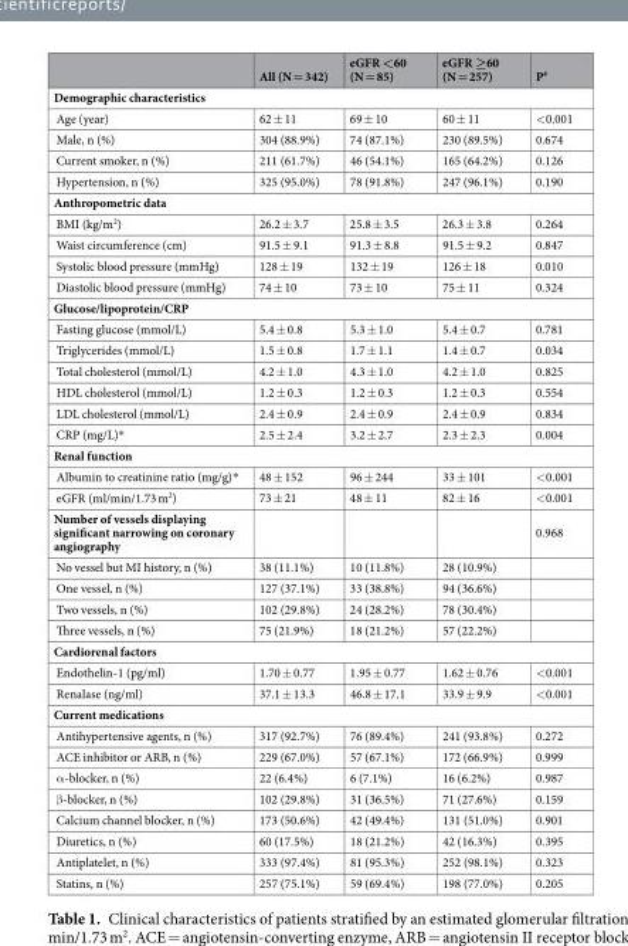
<table><thead><tr><td></td><td>All (N = 342)</td><td>eGFR &lt;60 (N = 85)</td><td>eGFR ≥60 (N = 257)</td><td>P<sup>#</sup></td></tr></thead><tbody><tr><td colspan="5">Demographic characteristics</td></tr><tr><td>Age (year)</td><td>62 ± 11</td><td>69 ± 10</td><td>60 ± 11</td><td>&lt;0.001</td></tr><tr><td>Male, n (%)</td><td>304 (88.9%)</td><td>74 (87.1%)</td><td>230 (89.5%)</td><td>0.674</td></tr><tr><td>Current smoker, n (%)</td><td>211 (61.7%)</td><td>46 (54.1%)</td><td>165 (64.2%)</td><td>0.126</td></tr><tr><td>Hypertension, n (%)</td><td>325 (95.0%)</td><td>78 (91.8%)</td><td>247 (96.1%)</td><td>0.190</td></tr><tr><td colspan="5">Anthropometric data</td></tr><tr><td>BMI (kg/m<sup>2</sup>)</td><td>26.2 ± 3.7</td><td>25.8 ± 3.5</td><td>26.3 ± 3.8</td><td>0.264</td></tr><tr><td>Waist circumference (cm)</td><td>91.5 ± 9.1</td><td>91.3 ± 8.8</td><td>91.5 ± 9.2</td><td>0.847</td></tr><tr><td>Systolic blood pressure (mmHg)</td><td>128 ± 19</td><td>132 ± 19</td><td>126 ± 18</td><td>0.010</td></tr><tr><td>Diastolic blood pressure (mmHg)</td><td>74 ± 10</td><td>73 ± 10</td><td>75 ± 11</td><td>0.324</td></tr><tr><td colspan="5">Glucose/lipoprotein/CRP</td></tr><tr><td>Fasting glucose (mmol/L)</td><td>5.4 ± 0.8</td><td>5.3 ± 1.0</td><td>5.4 ± 0.7</td><td>0.781</td></tr><tr><td>Triglycerides (mmol/L)</td><td>1.5 ± 0.8</td><td>1.7 ± 1.1</td><td>1.4 ± 0.7</td><td>0.034</td></tr><tr><td>Total cholesterol (mmol/L)</td><td>4.2 ± 1.0</td><td>4.3 ± 1.0</td><td>4.2 ± 1.0</td><td>0.825</td></tr><tr><td>HDL cholesterol (mmol/L)</td><td>1.2 ± 0.3</td><td>1.2 ± 0.3</td><td>1.2 ± 0.3</td><td>0.554</td></tr><tr><td>LDL cholesterol (mmol/L)</td><td>2.4 ± 0.9</td><td>2.4 ± 0.9</td><td>2.4 ± 0.9</td><td>0.834</td></tr><tr><td>CRP (mg/L)*</td><td>2.5 ± 2.4</td><td>3.2 ± 2.7</td><td>2.3 ± 2.3</td><td>0.004</td></tr><tr><td colspan="5">Renal function</td></tr><tr><td>Albumin to creatinine ratio (mg/g)*</td><td>48 ± 152</td><td>96 ± 244</td><td>33 ± 101</td><td>&lt;0.001</td></tr><tr><td>eGFR (ml/min/1.73 m<sup>2</sup>)</td><td>73 ± 21</td><td>48 ± 11</td><td>82 ± 16</td><td>&lt;0.001</td></tr><tr><td>Number of vessels displaying significant narrowing on coronary angiography</td><td></td><td></td><td></td><td>0.968</td></tr><tr><td>No vessel but MI history, n (%)</td><td>38 (11.1%)</td><td>10 (11.8%)</td><td>28 (10.9%)</td><td></td></tr><tr><td>One vessel, n (%)</td><td>127 (37.1%)</td><td>33 (38.8%)</td><td>94 (36.6%)</td><td></td></tr><tr><td>Two vessels, n (%)</td><td>102 (29.8%)</td><td>24 (28.2%)</td><td>78 (30.4%)</td><td></td></tr><tr><td>Three vessels, n (%)</td><td>75 (21.9%)</td><td>18 (21.2%)</td><td>57 (22.2%)</td><td></td></tr><tr><td colspan="5">Cardiorenal factors</td></tr><tr><td>Endothelin-1 (pg/ml)</td><td>1.70 ± 0.77</td><td>1.95 ± 0.77</td><td>1.62 ± 0.76</td><td>&lt;0.001</td></tr><tr><td>Renalase (ng/ml)</td><td>37.1 ± 13.3</td><td>46.8 ± 17.1</td><td>33.9 ± 9.9</td><td>&lt;0.001</td></tr><tr><td colspan="5">Current medications</td></tr><tr><td>Antihypertensive agents, n (%)</td><td>317 (92.7%)</td><td>76 (89.4%)</td><td>241 (93.8%)</td><td>0.272</td></tr><tr><td>ACE inhibitor or ARB, n (%)</td><td>229 (67.0%)</td><td>57 (67.1%)</td><td>172 (66.9%)</td><td>0.999</td></tr><tr><td>α-blocker, n (%)</td><td>22 (6.4%)</td><td>6 (7.1%)</td><td>16 (6.2%)</td><td>0.987</td></tr><tr><td>β-blocker, n (%)</td><td>102 (29.8%)</td><td>31 (36.5%)</td><td>71 (27.6%)</td><td>0.159</td></tr><tr><td>Calcium channel blocker, n (%)</td><td>173 (50.6%)</td><td>42 (49.4%)</td><td>131 (51.0%)</td><td>0.901</td></tr><tr><td>Diuretics, n (%)</td><td>60 (17.5%)</td><td>18 (21.2%)</td><td>42 (16.3%)</td><td>0.395</td></tr><tr><td>Antiplatelet, n (%)</td><td>333 (97.4%)</td><td>81 (95.3%)</td><td>252 (98.1%)</td><td>0.323</td></tr><tr><td>Statins, n (%)</td><td>257 (75.1%)</td><td>59 (69.4%)</td><td>198 (77.0%)</td><td>0.205</td></tr></tbody></table>